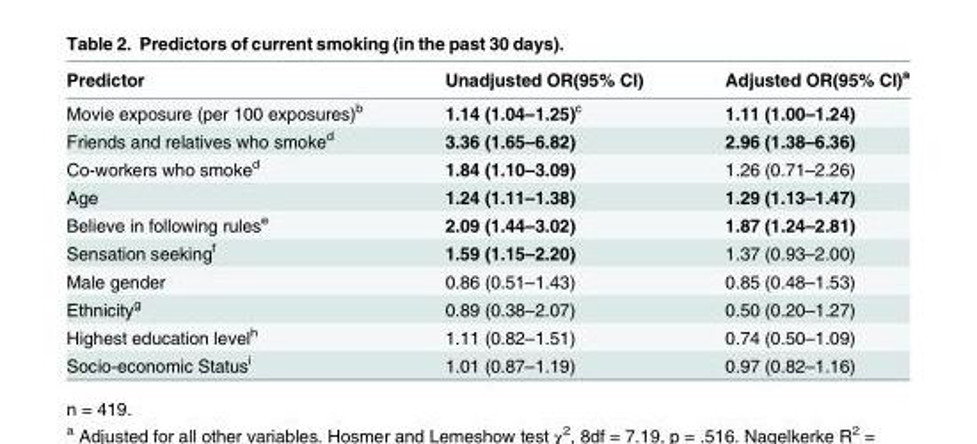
<table><thead><tr><td>Predictor</td><td>Unadjusted OR(95% CI)</td><td>Adjusted OR(95% CI)<sup>a</sup></td></tr></thead><tbody><tr><td>Movie exposure (per 100 exposures)<sup>b</sup></td><td>1.14 (1.04–1.25)<sup>c</sup></td><td>1.11 (1.00–1.24)</td></tr><tr><td>Friends and relatives who smoke<sup>d</sup></td><td>3.36 (1.65–6.82)</td><td>2.96 (1.38–6.36)</td></tr><tr><td>Co-workers who smoke<sup>d</sup></td><td>1.84 (1.10–3.09)</td><td>1.26 (0.71–2.26)</td></tr><tr><td>Age</td><td>1.24 (1.11–1.38)</td><td>1.29 (1.13–1.47)</td></tr><tr><td>Believe in following rules<sup>e</sup></td><td>2.09 (1.44–3.02)</td><td>1.87 (1.24–2.81)</td></tr><tr><td>Sensation seeking<sup>f</sup></td><td>1.59 (1.15–2.20)</td><td>1.37 (0.93–2.00)</td></tr><tr><td>Male gender</td><td>0.86 (0.51–1.43)</td><td>0.85 (0.48–1.53)</td></tr><tr><td>Ethnicity<sup>g</sup></td><td>0.89 (0.38–2.07)</td><td>0.50 (0.20–1.27)</td></tr><tr><td>Highest education level<sup>h</sup></td><td>1.11 (0.82–1.51)</td><td>0.74 (0.50–1.09)</td></tr><tr><td>Socio-economic Status<sup>i</sup></td><td>1.01 (0.87–1.19)</td><td>0.97 (0.82–1.16)</td></tr></tbody></table>